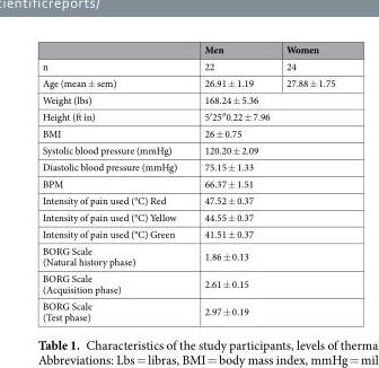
<table><thead><tr><td></td><td>Men</td><td>Women</td></tr></thead><tbody><tr><td>n</td><td>22</td><td>24</td></tr><tr><td>Age (mean ± sem)</td><td>26.91 ± 1.19</td><td>27.88 ± 1.75</td></tr><tr><td>Weight (lbs)</td><td colspan="2">168.24 ± 5.36</td></tr><tr><td>Height (ft in)</td><td colspan="2">5′25″0.22 ± 7.96</td></tr><tr><td>BMI</td><td colspan="2">26 ± 0.75</td></tr><tr><td>Systolic blood pressure (mmHg)</td><td colspan="2">120.20 ± 2.09</td></tr><tr><td>Diastolic blood pressure (mmHg)</td><td colspan="2">75.15 ± 1.33</td></tr><tr><td>BPM</td><td colspan="2">66.37 ± 1.51</td></tr><tr><td>Intensity of pain used (°C) Red</td><td colspan="2">47.52 ± 0.37</td></tr><tr><td>Intensity of pain used (°C) Yellow</td><td colspan="2">44.55 ± 0.37</td></tr><tr><td>Intensity of pain used (°C) Green</td><td colspan="2">41.51 ± 0.37</td></tr><tr><td>BORG Scale (Natural history phase)</td><td colspan="2">1.86 ± 0.13</td></tr><tr><td>BORG Scale (Acquisition phase)</td><td colspan="2">2.61 ± 0.15</td></tr><tr><td>BORG Scale (Test phase)</td><td colspan="2">2.97 ± 0.19</td></tr></tbody></table>